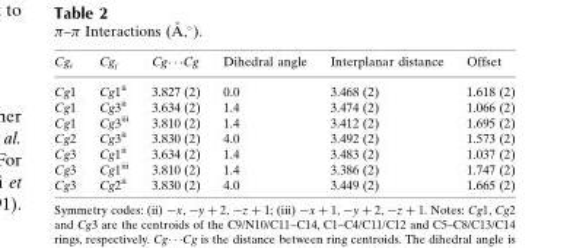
<table><thead><tr><td>Cg<sub>i</sub></td><td>Cg<sub>j</sub></td><td>Cg� � �Cg</td><td>Dihedral angle</td><td>Interplanar distance</td><td>Offset</td></tr></thead><tbody><tr><td>Cg1</td><td>Cg1<sup>ii</sup></td><td>3.827 (2)</td><td>0.0</td><td>3.468 (2)</td><td>1.618 (2)</td></tr><tr><td>Cg1</td><td>Cg3<sup>ii</sup></td><td>3.634 (2)</td><td>1.4</td><td>3.474 (2)</td><td>1.066 (2)</td></tr><tr><td>Cg1</td><td>Cg3<sup>iii</sup></td><td>3.810 (2)</td><td>1.4</td><td>3.412 (2)</td><td>1.695 (2)</td></tr><tr><td>Cg2</td><td>Cg3<sup>ii</sup></td><td>3.830 (2)</td><td>4.0</td><td>3.492 (2)</td><td>1.573 (2)</td></tr><tr><td>Cg3</td><td>Cg1<sup>ii</sup></td><td>3.634 (2)</td><td>1.4</td><td>3.483 (2)</td><td>1.037 (2)</td></tr><tr><td>Cg3</td><td>Cg1<sup>iii</sup></td><td>3.810 (2)</td><td>1.4</td><td>3.386 (2)</td><td>1.747 (2)</td></tr><tr><td>Cg3</td><td>Cg2<sup>ii</sup></td><td>3.830 (2)</td><td>4.0</td><td>3.449 (2)</td><td>1.665 (2)</td></tr></tbody></table>